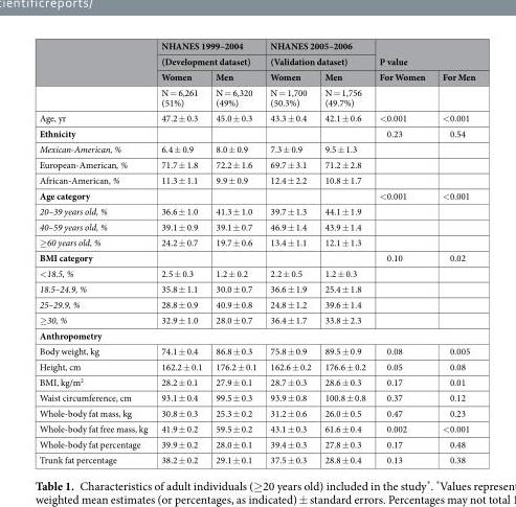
<table><thead><tr><td rowspan="3"></td><td rowspan="2" colspan="2">NHANES 1999–2004 (Development dataset)</td><td rowspan="2" colspan="2">NHANES 2005–2006 (Validation dataset)</td><td rowspan="2" colspan="2">P value</td></tr><tr></tr><tr><td>Women</td><td>Men</td><td>Women</td><td>Men</td><td>For Women</td><td>For Men</td></tr></thead><tbody><tr><td></td><td>N = 6,261 (51%)</td><td>N = 6,320 (49%)</td><td>N = 1,700 (50.3%)</td><td>N = 1,756 (49.7%)</td><td></td><td></td></tr><tr><td>Age, yr</td><td>47.2 ± 0.3</td><td>45.0 ± 0.3</td><td>43.3 ± 0.4</td><td>42.1 ± 0.6</td><td>&lt;0.001</td><td>&lt;0.001</td></tr><tr><td>Ethnicity</td><td></td><td></td><td></td><td></td><td>0.23</td><td>0.54</td></tr><tr><td>Mexican-American, %</td><td>6.4 ± 0.9</td><td>8.0 ± 0.9</td><td>7.3 ± 0.9</td><td>9.5 ± 1.3</td><td></td><td></td></tr><tr><td>European-American, %</td><td>71.7 ± 1.8</td><td>72.2 ± 1.6</td><td>69.7 ± 3.1</td><td>71.2 ± 2.8</td><td></td><td></td></tr><tr><td>African-American, %</td><td>11.3 ± 1.1</td><td>9.9 ± 0.9</td><td>12.4 ± 2.2</td><td>10.8 ± 1.7</td><td></td><td></td></tr><tr><td>Age category</td><td></td><td></td><td></td><td></td><td>&lt;0.001</td><td>&lt;0.001</td></tr><tr><td>20–39 years old, %</td><td>36.6 ± 1.0</td><td>41.3 ± 1.0</td><td>39.7 ± 1.3</td><td>44.1 ± 1.9</td><td></td><td></td></tr><tr><td>40–59 years old, %</td><td>39.1 ± 0.9</td><td>39.1 ± 0.7</td><td>46.9 ± 1.4</td><td>43.9 ± 1.4</td><td></td><td></td></tr><tr><td>≥60 years old, %</td><td>24.2 ± 0.7</td><td>19.7 ± 0.6</td><td>13.4 ± 1.1</td><td>12.1 ± 1.3</td><td></td><td></td></tr><tr><td>BMI category</td><td></td><td></td><td></td><td></td><td>0.10</td><td>0.02</td></tr><tr><td>&lt;18.5, %</td><td>2.5 ± 0.3</td><td>1.2 ± 0.2</td><td>2.2 ± 0.5</td><td>1.2 ± 0.3</td><td></td><td></td></tr><tr><td>18.5–24.9, %</td><td>35.8 ± 1.1</td><td>30.0 ± 0.7</td><td>36.6 ± 1.9</td><td>25.4 ± 1.8</td><td></td><td></td></tr><tr><td>25–29.9, %</td><td>28.8 ± 0.9</td><td>40.9 ± 0.8</td><td>24.8 ± 1.2</td><td>39.6 ± 1.4</td><td></td><td></td></tr><tr><td>≥30, %</td><td>32.9 ± 1.0</td><td>28.0 ± 0.7</td><td>36.4 ± 1.7</td><td>33.8 ± 2.3</td><td></td><td></td></tr><tr><td colspan="7">Anthropometry</td></tr><tr><td>Body weight, kg</td><td>74.1 ± 0.4</td><td>86.8 ± 0.3</td><td>75.8 ± 0.9</td><td>89.5 ± 0.9</td><td>0.08</td><td>0.005</td></tr><tr><td>Height, cm</td><td>162.2 ± 0.1</td><td>176.2 ± 0.1</td><td>162.6 ± 0.2</td><td>176.6 ± 0.2</td><td>0.05</td><td>0.08</td></tr><tr><td>BMI, kg/m<sup>2</sup></td><td>28.2 ± 0.1</td><td>27.9 ± 0.1</td><td>28.7 ± 0.3</td><td>28.6 ± 0.3</td><td>0.17</td><td>0.01</td></tr><tr><td>Waist circumference, cm</td><td>93.1 ± 0.4</td><td>99.5 ± 0.3</td><td>93.9 ± 0.8</td><td>100.8 ± 0.8</td><td>0.37</td><td>0.12</td></tr><tr><td>Whole-body fat mass, kg</td><td>30.8 ± 0.3</td><td>25.3 ± 0.2</td><td>31.2 ± 0.6</td><td>26.0 ± 0.5</td><td>0.47</td><td>0.23</td></tr><tr><td>Whole-body fat free mass, kg</td><td>41.9 ± 0.2</td><td>59.5 ± 0.2</td><td>43.1 ± 0.3</td><td>61.6 ± 0.4</td><td>0.002</td><td>&lt;0.001</td></tr><tr><td>Whole-body fat percentage</td><td>39.9 ± 0.2</td><td>28.0 ± 0.1</td><td>39.4 ± 0.3</td><td>27.8 ± 0.3</td><td>0.17</td><td>0.48</td></tr><tr><td>Trunk fat percentage</td><td>38.2 ± 0.2</td><td>29.1 ± 0.1</td><td>37.5 ± 0.3</td><td>28.8 ± 0.4</td><td>0.13</td><td>0.38</td></tr></tbody></table>